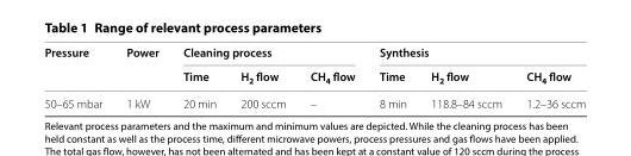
<table><thead><tr><td rowspan="2">Pressure</td><td rowspan="2">Power</td><td colspan="3">Cleaning process</td><td colspan="3">Synthesis</td></tr><tr><td>Time</td><td>H<sub>2</sub> flow</td><td>CH<sub>4</sub> flow</td><td>Time</td><td>H<sub>2</sub> flow</td><td>CH<sub>4</sub> flow</td></tr></thead><tbody><tr><td>50–65 mbar</td><td>1 kW</td><td>20 min</td><td>200 sccm</td><td>–</td><td>8 min</td><td>118.8–84 sccm</td><td>1.2–36 sccm</td></tr></tbody></table>